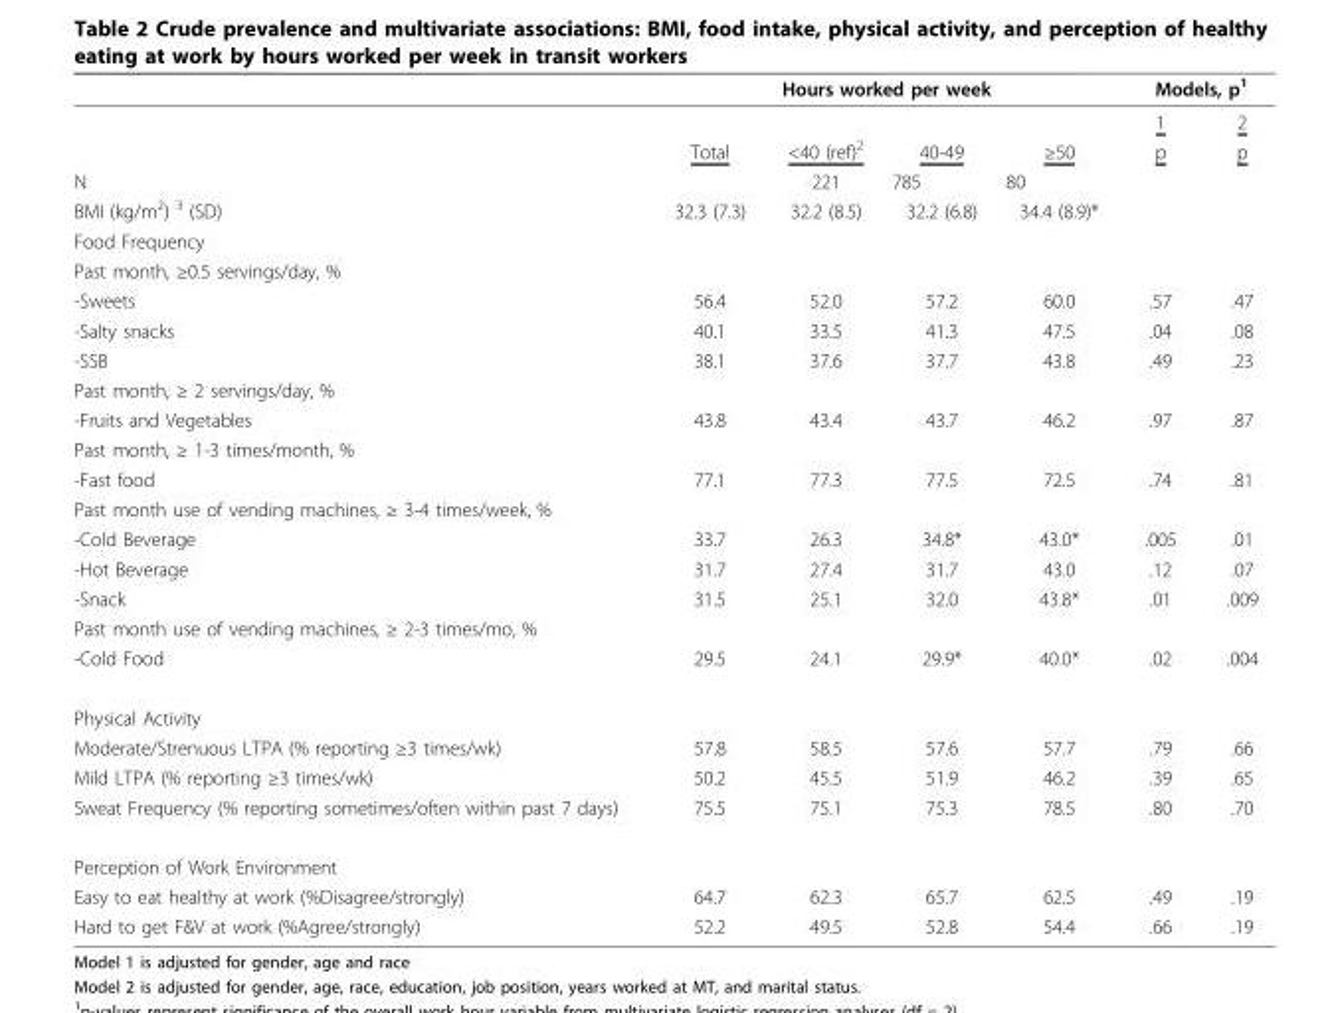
<table><thead><tr><td rowspan="2"></td><td colspan="4">Hours worked per week</td><td colspan="2">Models, p<sup>1</sup></td></tr><tr><td></td><td></td><td></td><td></td><td>1</td><td>2</td></tr></thead><tbody><tr><td></td><td>Total</td><td>&lt;40 (ref)<sup>2</sup></td><td>40-49</td><td>≥50</td><td>p</td><td>p</td></tr><tr><td>N</td><td></td><td>221</td><td>785</td><td>80</td><td></td><td></td></tr><tr><td>BMI (kg/m<sup>2</sup>) <sup>3</sup> (SD)</td><td>32.3 (7.3)</td><td>32.2 (8.5)</td><td>32.2 (6.8)</td><td>34.4 (8.9)*</td><td></td><td></td></tr><tr><td colspan="7">Food Frequency</td></tr><tr><td colspan="7">Past month, ≥0.5 servings/day, %</td></tr><tr><td>-Sweets</td><td>56.4</td><td>52.0</td><td>57.2</td><td>60.0</td><td>.57</td><td>.47</td></tr><tr><td>-Salty snacks</td><td>40.1</td><td>33.5</td><td>41.3</td><td>47.5</td><td>.04</td><td>.08</td></tr><tr><td>-SSB</td><td>38.1</td><td>37.6</td><td>37.7</td><td>43.8</td><td>.49</td><td>.23</td></tr><tr><td colspan="7">Past month, ≥ 2 servings/day, %</td></tr><tr><td>-Fruits and Vegetables</td><td>43.8</td><td>43.4</td><td>43.7</td><td>46.2</td><td>.97</td><td>.87</td></tr><tr><td colspan="7">Past month, ≥ 1-3 times/month, %</td></tr><tr><td>-Fast food</td><td>77.1</td><td>77.3</td><td>77.5</td><td>72.5</td><td>.74</td><td>.81</td></tr><tr><td colspan="7">Past month use of vending machines, ≥ 3-4 times/week, %</td></tr><tr><td>-Cold Beverage</td><td>33.7</td><td>26.3</td><td>34.8*</td><td>43.0*</td><td>.005</td><td>.01</td></tr><tr><td>-Hot Beverage</td><td>31.7</td><td>27.4</td><td>31.7</td><td>43.0</td><td>.12</td><td>.07</td></tr><tr><td>-Snack</td><td>31.5</td><td>25.1</td><td>32.0</td><td>43.8*</td><td>.01</td><td>.009</td></tr><tr><td colspan="7">Past month use of vending machines, ≥ 2-3 times/mo, %</td></tr><tr><td>-Cold Food</td><td>29.5</td><td>24.1</td><td>29.9*</td><td>40.0*</td><td>.02</td><td>.004</td></tr><tr><td colspan="7">Physical Activity</td></tr><tr><td>Moderate/Strenuous LTPA (% reporting ≥3 times/wk)</td><td>57.8</td><td>58.5</td><td>57.6</td><td>57.7</td><td>.79</td><td>.66</td></tr><tr><td>Mild LTPA (% reporting ≥3 times/wk)</td><td>50.2</td><td>45.5</td><td>51.9</td><td>46.2</td><td>.39</td><td>.65</td></tr><tr><td>Sweat Frequency (% reporting sometimes/often within past 7 days)</td><td>75.5</td><td>75.1</td><td>75.3</td><td>78.5</td><td>.80</td><td>.70</td></tr><tr><td colspan="7">Perception of Work Environment</td></tr><tr><td>Easy to eat healthy at work (%Disagree/strongly)</td><td>64.7</td><td>62.3</td><td>65.7</td><td>62.5</td><td>.49</td><td>.19</td></tr><tr><td>Hard to get F&amp;V at work (%Agree/strongly)</td><td>52.2</td><td>49.5</td><td>52.8</td><td>54.4</td><td>.66</td><td>.19</td></tr></tbody></table>